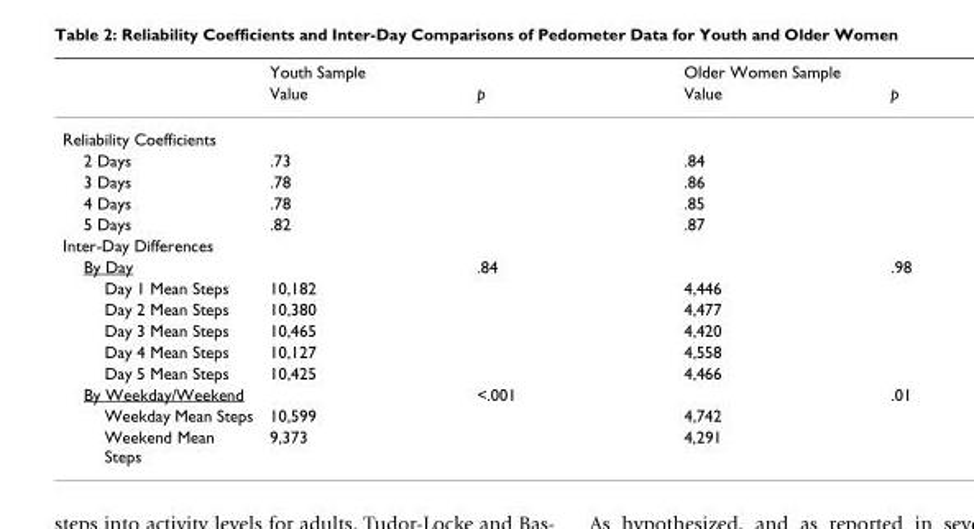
<table><thead><tr><td rowspan="2"></td><td rowspan="2">Youth Sample Value</td><td rowspan="2">p</td><td rowspan="2">Older Women Sample Value</td><td rowspan="2">p</td></tr><tr></tr></thead><tbody><tr><td colspan="5">Reliability Coefficients</td></tr><tr><td>2 Days</td><td>.73</td><td></td><td>.84</td><td></td></tr><tr><td>3 Days</td><td>.78</td><td></td><td>.86</td><td></td></tr><tr><td>4 Days</td><td>.78</td><td></td><td>.85</td><td></td></tr><tr><td>5 Days</td><td>.82</td><td></td><td>.87</td><td></td></tr><tr><td colspan="5">Inter-Day Differences</td></tr><tr><td>By Day</td><td></td><td>.84</td><td></td><td>.98</td></tr><tr><td>Day 1 Mean Steps</td><td>10,182</td><td></td><td>4,446</td><td></td></tr><tr><td>Day 2 Mean Steps</td><td>10,380</td><td></td><td>4,477</td><td></td></tr><tr><td>Day 3 Mean Steps</td><td>10,465</td><td></td><td>4,420</td><td></td></tr><tr><td>Day 4 Mean Steps</td><td>10,127</td><td></td><td>4,558</td><td></td></tr><tr><td>Day 5 Mean Steps</td><td>10,425</td><td></td><td>4,466</td><td></td></tr><tr><td>By Weekday/Weekend</td><td></td><td>&lt;.001</td><td></td><td>.01</td></tr><tr><td>Weekday Mean Steps</td><td>10,599</td><td></td><td>4,742</td><td></td></tr><tr><td>Weekend Mean Steps</td><td>9,373</td><td></td><td>4,291</td><td></td></tr></tbody></table>